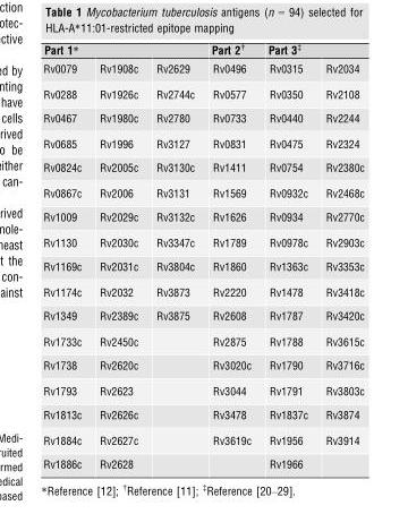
<table><thead><tr><td colspan="3">Part 1*</td><td rowspan="2">Part 2† Rv0496</td><td colspan="2">Part 3‡</td></tr><tr><td>Rv0079</td><td>Rv1908c</td><td>Rv2629</td><td>Rv0315</td><td>Rv2034</td></tr></thead><tbody><tr><td>Rv0288</td><td>Rv1926c</td><td>Rv2744c</td><td>Rv0577</td><td>Rv0350</td><td>Rv2108</td></tr><tr><td>Rv0467</td><td>Rv1980c</td><td>Rv2780</td><td>Rv0733</td><td>Rv0440</td><td>Rv2244</td></tr><tr><td>Rv0685</td><td>Rv1996</td><td>Rv3127</td><td>Rv0831</td><td>Rv0475</td><td>Rv2324</td></tr><tr><td>Rv0824c</td><td>Rv2005c</td><td>Rv3130c</td><td>Rv1411</td><td>Rv0754</td><td>Rv2380c</td></tr><tr><td>Rv0867c</td><td>Rv2006</td><td>Rv3131</td><td>Rv1569</td><td>Rv0932c</td><td>Rv2468c</td></tr><tr><td>Rv1009</td><td>Rv2029c</td><td>Rv3132c</td><td>Rv1626</td><td>Rv0934</td><td>Rv2770c</td></tr><tr><td>Rv1130</td><td>Rv2030c</td><td>Rv3347c</td><td>Rv1789</td><td>Rv0978c</td><td>Rv2903c</td></tr><tr><td>Rv1169c</td><td>Rv2031c</td><td>Rv3804c</td><td>Rv1860</td><td>Rv1363c</td><td>Rv3353c</td></tr><tr><td>Rv1174c</td><td>Rv2032</td><td>Rv3873</td><td>Rv2220</td><td>Rv1478</td><td>Rv3418c</td></tr><tr><td>Rv1349</td><td>Rv2389c</td><td>Rv3875</td><td>Rv2608</td><td>Rv1787</td><td>Rv3420c</td></tr><tr><td>Rv1733c</td><td>Rv2450c</td><td></td><td>Rv2875</td><td>Rv1788</td><td>Rv3615c</td></tr><tr><td>Rv1738</td><td>Rv2620c</td><td></td><td>Rv3020c</td><td>Rv1790</td><td>Rv3716c</td></tr><tr><td>Rv1793</td><td>Rv2623</td><td></td><td>Rv3044</td><td>Rv1791</td><td>Rv3803c</td></tr><tr><td>Rv1813c</td><td>Rv2626c</td><td></td><td>Rv3478</td><td>Rv1837c</td><td>Rv3874</td></tr><tr><td>Rv1884c</td><td>Rv2627c</td><td></td><td>Rv3619c</td><td>Rv1956</td><td>Rv3914</td></tr><tr><td>Rv1886c</td><td>Rv2628</td><td></td><td></td><td>Rv1966</td><td></td></tr></tbody></table>